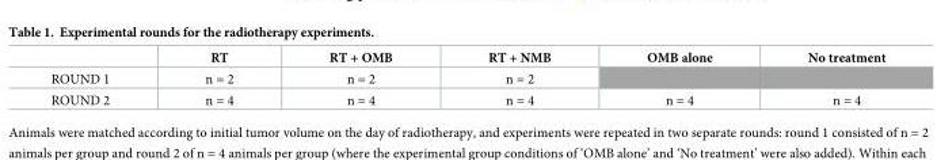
<table><thead><tr><td></td><td>RT</td><td>RT + OMB</td><td>RT + NMB</td><td>OMB alone</td><td>No treatment</td></tr></thead><tbody><tr><td>ROUND 1</td><td>n = 2</td><td>n = 2</td><td>n = 2</td><td></td><td></td></tr><tr><td>ROUND 2</td><td>n = 4</td><td>n = 4</td><td>n = 4</td><td>n = 4</td><td>n = 4</td></tr></tbody></table>